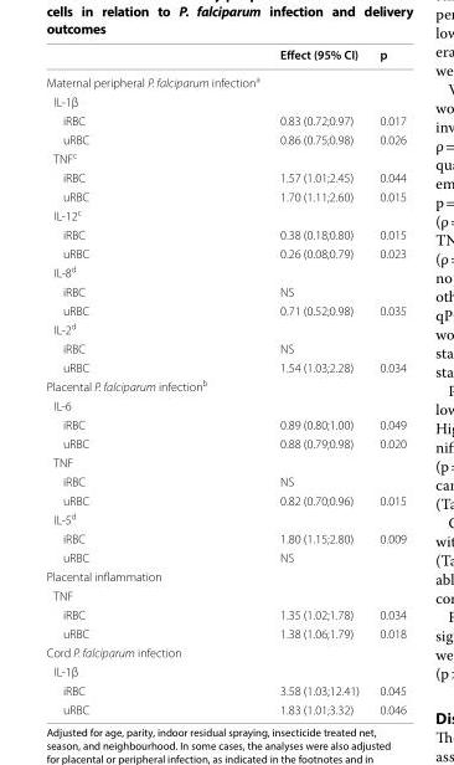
<table><thead><tr><td></td><td>Effect (95% CI)</td><td>p</td></tr></thead><tbody><tr><td colspan="3">Maternal peripheral P. falciparum infection<sup>a</sup></td></tr><tr><td colspan="3">IL-1β</td></tr><tr><td>iRBC</td><td>0.83 (0.72;0.97)</td><td>0.017</td></tr><tr><td>uRBC</td><td>0.86 (0.75;0.98)</td><td>0.026</td></tr><tr><td colspan="3">TNF<sup>c</sup></td></tr><tr><td>iRBC</td><td>1.57 (1.01;2.45)</td><td>0.044</td></tr><tr><td>uRBC</td><td>1.70 (1.11;2.60)</td><td>0.015</td></tr><tr><td colspan="3">IL-12<sup>c</sup></td></tr><tr><td>iRBC</td><td>0.38 (0.18;0.80)</td><td>0.015</td></tr><tr><td>uRBC</td><td>0.26 (0.08;0.79)</td><td>0.023</td></tr><tr><td colspan="3">IL-8<sup>d</sup></td></tr><tr><td>iRBC</td><td>NS</td><td></td></tr><tr><td>uRBC</td><td>0.71 (0.52;0.98)</td><td>0.035</td></tr><tr><td colspan="3">IL-2<sup>d</sup></td></tr><tr><td>iRBC</td><td>NS</td><td></td></tr><tr><td>uRBC</td><td>1.54 (1.03;2.28)</td><td>0.034</td></tr><tr><td colspan="3">Placental P. falciparum infection<sup>b</sup></td></tr><tr><td colspan="3">IL-6</td></tr><tr><td>iRBC</td><td>0.89 (0.80;1.00)</td><td>0.049</td></tr><tr><td>uRBC</td><td>0.88 (0.79;0.98)</td><td>0.020</td></tr><tr><td colspan="3">TNF</td></tr><tr><td>iRBC</td><td>NS</td><td></td></tr><tr><td>uRBC</td><td>0.82 (0.70;0.96)</td><td>0.015</td></tr><tr><td colspan="3">IL-5<sup>d</sup></td></tr><tr><td>iRBC</td><td>1.80 (1.15;2.80)</td><td>0.009</td></tr><tr><td>uRBC</td><td>NS</td><td></td></tr><tr><td colspan="3">Placental inflammation</td></tr><tr><td colspan="3">TNF</td></tr><tr><td>iRBC</td><td>1.35 (1.02;1.78)</td><td>0.034</td></tr><tr><td>uRBC</td><td>1.38 (1.06;1.79)</td><td>0.018</td></tr><tr><td colspan="3">Cord P. falciparum infection</td></tr><tr><td colspan="3">IL-1β</td></tr><tr><td>iRBC</td><td>3.58 (1.03;12.41)</td><td>0.045</td></tr><tr><td>uRBC</td><td>1.83 (1.01;3.32)</td><td>0.046</td></tr></tbody></table>